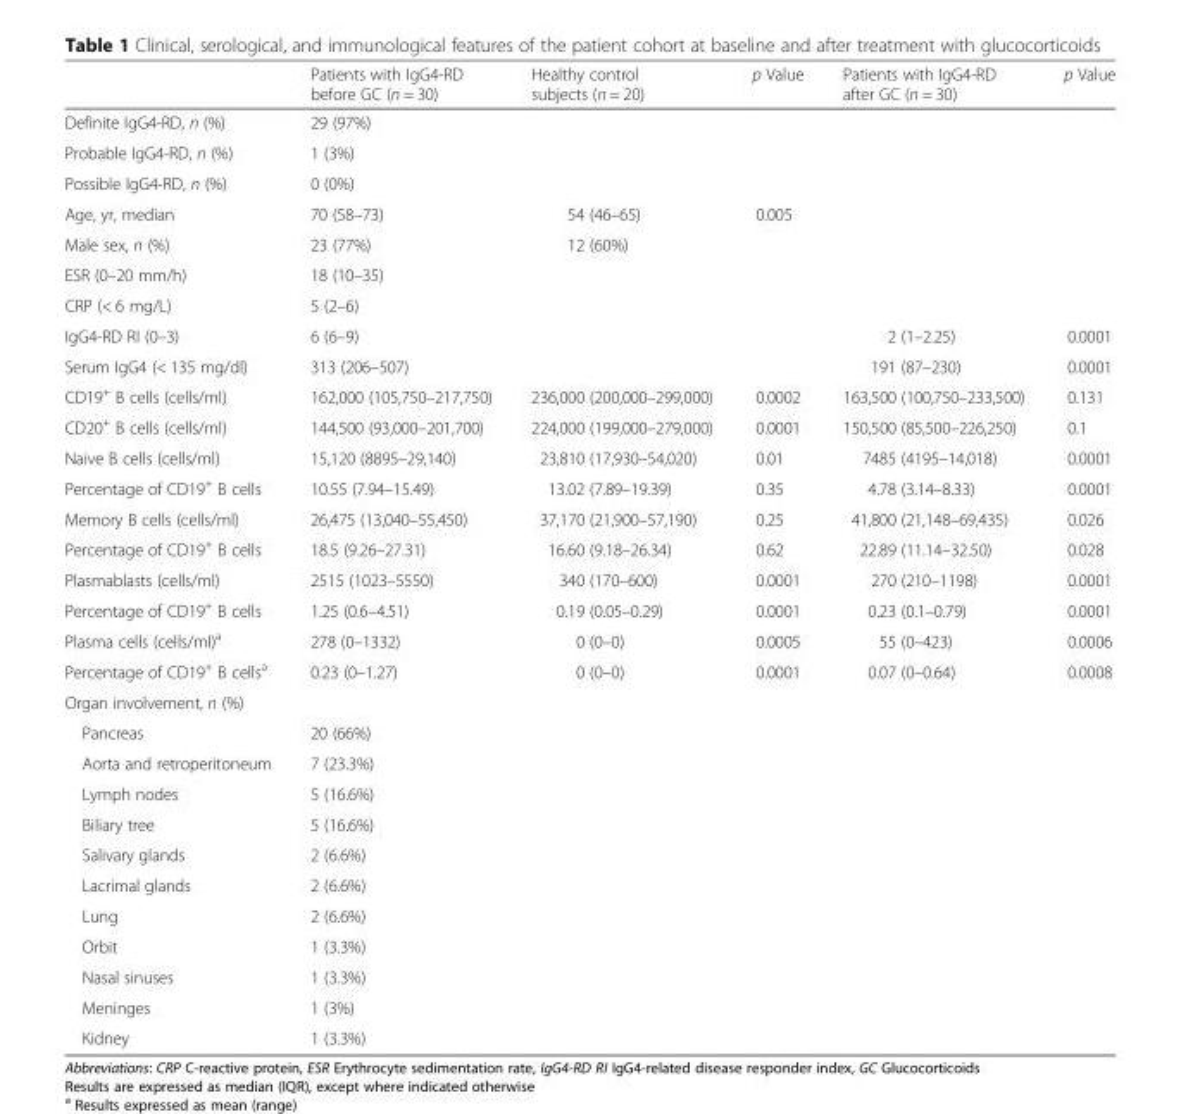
<table><thead><tr><td></td><td>Patients with IgG4-RD before GC (n = 30)</td><td>Healthy control subjects (n = 20)</td><td>p Value</td><td>Patients with IgG4-RD after GC (n = 30)</td><td>p Value</td></tr></thead><tbody><tr><td>Definite IgG4-RD, n (%)</td><td>29 (97%)</td><td></td><td></td><td></td><td></td></tr><tr><td>Probable IgG4-RD, n (%)</td><td>1 (3%)</td><td></td><td></td><td></td><td></td></tr><tr><td>Possible IgG4-RD, n (%)</td><td>0 (0%)</td><td></td><td></td><td></td><td></td></tr><tr><td>Age, yr, median</td><td>70 (58–73)</td><td>54 (46–65)</td><td>0.005</td><td></td><td></td></tr><tr><td>Male sex, n (%)</td><td>23 (77%)</td><td>12 (60%)</td><td></td><td></td><td></td></tr><tr><td>ESR (0–20 mm/h)</td><td>18 (10–35)</td><td></td><td></td><td></td><td></td></tr><tr><td>CRP (&lt; 6 mg/L)</td><td>5 (2–6)</td><td></td><td></td><td></td><td></td></tr><tr><td>IgG4-RD RI (0–3)</td><td>6 (6–9)</td><td></td><td></td><td>2 (1–2.25)</td><td>0.0001</td></tr><tr><td>Serum IgG4 (&lt; 135 mg/dl)</td><td>313 (206–507)</td><td></td><td></td><td>191 (87–230)</td><td>0.0001</td></tr><tr><td>CD19<sup>+</sup> B cells (cells/ml)</td><td>162,000 (105,750–217,750)</td><td>236,000 (200,000–299,000)</td><td>0.0002</td><td>163,500 (100,750–233,500)</td><td>0.131</td></tr><tr><td>CD20<sup>+</sup> B cells (cells/ml)</td><td>144,500 (93,000–201,700)</td><td>224,000 (199,000–279,000)</td><td>0.0001</td><td>150,500 (85,500–226,250)</td><td>0.1</td></tr><tr><td>Naive B cells (cells/ml)</td><td>15,120 (8895–29,140)</td><td>23,810 (17,930–54,020)</td><td>0.01</td><td>7485 (4195–14,018)</td><td>0.0001</td></tr><tr><td>Percentage of CD19<sup>+</sup> B cells</td><td>10.55 (7.94–15.49)</td><td>13.02 (7.89–19.39)</td><td>0.35</td><td>4.78 (3.14–8.33)</td><td>0.0001</td></tr><tr><td>Memory B cells (cells/ml)</td><td>26,475 (13,040–55,450)</td><td>37,170 (21,900–57,190)</td><td>0.25</td><td>41,800 (21,148–69,435)</td><td>0.026</td></tr><tr><td>Percentage of CD19<sup>+</sup> B cells</td><td>18.5 (9.26–27.31)</td><td>16.60 (9.18–26.34)</td><td>0.62</td><td>22.89 (11.14–32.50)</td><td>0.028</td></tr><tr><td>Plasmablasts (cells/ml)</td><td>2515 (1023–5550)</td><td>340 (170–600)</td><td>0.0001</td><td>270 (210–1198)</td><td>0.0001</td></tr><tr><td>Percentage of CD19<sup>+</sup> B cells</td><td>1.25 (0.6–4.51)</td><td>0.19 (0.05–0.29)</td><td>0.0001</td><td>0.23 (0.1–0.79)</td><td>0.0001</td></tr><tr><td>Plasma cells (cells/ml)<sup>a</sup></td><td>278 (0–1332)</td><td>0 (0–0)</td><td>0.0005</td><td>55 (0–423)</td><td>0.0006</td></tr><tr><td>Percentage of CD19<sup>+</sup> B cells<sup>a</sup></td><td>0.23 (0–1.27)</td><td>0 (0–0)</td><td>0.0001</td><td>0.07 (0–0.64)</td><td>0.0008</td></tr><tr><td colspan="6">Organ involvement, n (%)</td></tr><tr><td>Pancreas</td><td>20 (66%)</td><td></td><td></td><td></td><td></td></tr><tr><td>Aorta and retroperitoneum</td><td>7 (23.3%)</td><td></td><td></td><td></td><td></td></tr><tr><td>Lymph nodes</td><td>5 (16.6%)</td><td></td><td></td><td></td><td></td></tr><tr><td>Biliary tree</td><td>5 (16.6%)</td><td></td><td></td><td></td><td></td></tr><tr><td>Salivary glands</td><td>2 (6.6%)</td><td></td><td></td><td></td><td></td></tr><tr><td>Lacrimal glands</td><td>2 (6.6%)</td><td></td><td></td><td></td><td></td></tr><tr><td>Lung</td><td>2 (6.6%)</td><td></td><td></td><td></td><td></td></tr><tr><td>Orbit</td><td>1 (3.3%)</td><td></td><td></td><td></td><td></td></tr><tr><td>Nasal sinuses</td><td>1 (3.3%)</td><td></td><td></td><td></td><td></td></tr><tr><td>Meninges</td><td>1 (3%)</td><td></td><td></td><td></td><td></td></tr><tr><td>Kidney</td><td>1 (3.3%)</td><td></td><td></td><td></td><td></td></tr></tbody></table>